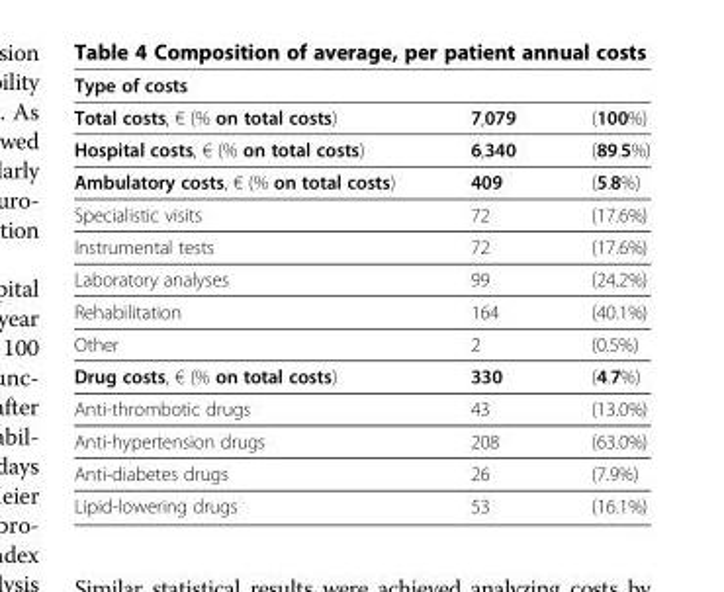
<table><thead><tr><td>Type of costs</td><td></td><td></td></tr></thead><tbody><tr><td>Total costs, € (% on total costs)</td><td>7,079</td><td>(100%)</td></tr><tr><td>Hospital costs, € (% on total costs)</td><td>6,340</td><td>(89.5%)</td></tr><tr><td>Ambulatory costs, € (% on total costs)</td><td>409</td><td>(5.8%)</td></tr><tr><td>Specialistic visits</td><td>72</td><td>(17.6%)</td></tr><tr><td>Instrumental tests</td><td>72</td><td>(17.6%)</td></tr><tr><td>Laboratory analyses</td><td>99</td><td>(24.2%)</td></tr><tr><td>Rehabilitation</td><td>164</td><td>(40.1%)</td></tr><tr><td>Other</td><td>2</td><td>(0.5%)</td></tr><tr><td>Drug costs, € (% on total costs)</td><td>330</td><td>(4.7%)</td></tr><tr><td>Anti-thrombotic drugs</td><td>43</td><td>(13.0%)</td></tr><tr><td>Anti-hypertension drugs</td><td>208</td><td>(63.0%)</td></tr><tr><td>Anti-diabetes drugs</td><td>26</td><td>(7.9%)</td></tr><tr><td>Lipid-lowering drugs</td><td>53</td><td>(16.1%)</td></tr></tbody></table>